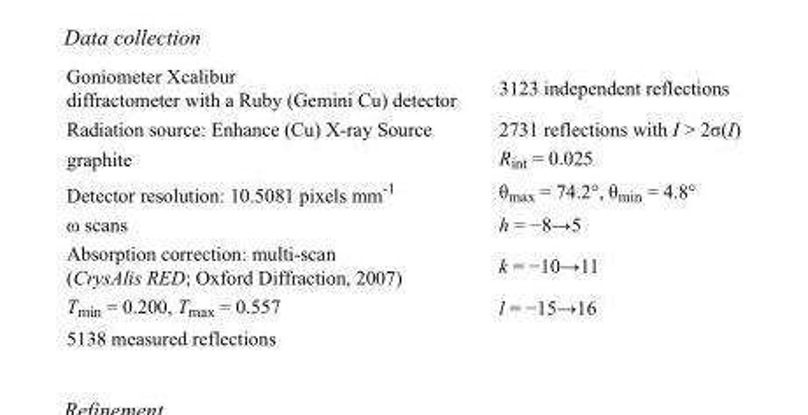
<table><tbody><tr><td>Goniometer Xcalibur diffractometer with a Ruby (Gemini Cu) detector</td><td>3123 independent reflections</td></tr><tr><td>Radiation source: Enhance (Cu) X-ray Source</td><td>2731 reflections with I &gt; 2σ(I)</td></tr><tr><td>graphite</td><td>R<sub>int</sub> = 0.025</td></tr><tr><td>Detector resolution: 10.5081 pixels mm<sup>-1</sup></td><td>θ<sub>max</sub> = 74.2°, θ<sub>min</sub> = 4.8°</td></tr><tr><td>ω scans</td><td>h = −8→5</td></tr><tr><td>Absorption correction: multi-scan (CrysAlis RED; Oxford Diffraction, 2007)</td><td>k = −10→11</td></tr><tr><td>T<sub>min</sub> = 0.200, T<sub>max</sub> = 0.557</td><td>l = −15→16</td></tr><tr><td>5138 measured reflections</td><td></td></tr></tbody></table>